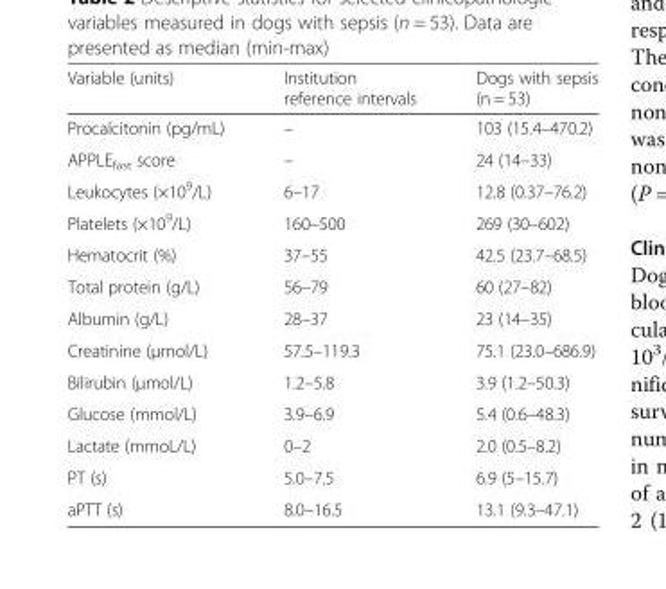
<table><thead><tr><td>Variable (units)</td><td>Institution reference intervals</td><td>Dogs with sepsis (n = 53)</td></tr></thead><tbody><tr><td>Procalcitonin (pg/mL)</td><td>–</td><td>103 (15.4–470.2)</td></tr><tr><td>APPLE<sub>fast</sub> score</td><td>–</td><td>24 (14–33)</td></tr><tr><td>Leukocytes (×10<sup>9</sup>/L)</td><td>6–17</td><td>12.8 (0.37–76.2)</td></tr><tr><td>Platelets (×10<sup>9</sup>/L)</td><td>160–500</td><td>269 (30–602)</td></tr><tr><td>Hematocrit (%)</td><td>37–55</td><td>42.5 (23.7–68.5)</td></tr><tr><td>Total protein (g/L)</td><td>56–79</td><td>60 (27–82)</td></tr><tr><td>Albumin (g/L)</td><td>28–37</td><td>23 (14–35)</td></tr><tr><td>Creatinine (μmol/L)</td><td>57.5–119.3</td><td>75.1 (23.0–686.9)</td></tr><tr><td>Bilirubin (μmol/L)</td><td>1.2–5.8</td><td>3.9 (1.2–50.3)</td></tr><tr><td>Glucose (mmol/L)</td><td>3.9–6.9</td><td>5.4 (0.6–48.3)</td></tr><tr><td>Lactate (mmoL/L)</td><td>0–2</td><td>2.0 (0.5–8.2)</td></tr><tr><td>PT (s)</td><td>5.0–7.5</td><td>6.9 (5–15.7)</td></tr><tr><td>aPTT (s)</td><td>8.0–16.5</td><td>13.1 (9.3–47.1)</td></tr></tbody></table>